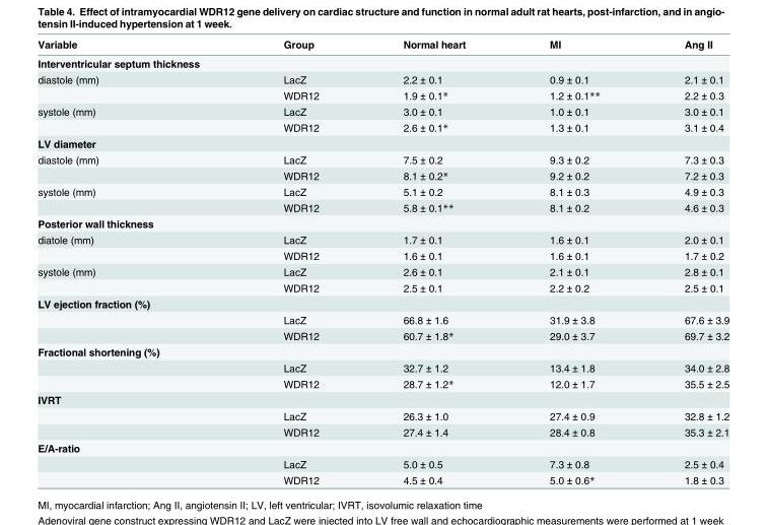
<table><thead><tr><td>Variable</td><td>Group</td><td>Normal heart</td><td>MI</td><td>Ang II</td></tr></thead><tbody><tr><td colspan="5">Interventricular septum thickness</td></tr><tr><td rowspan="2">diastole (mm)</td><td>LacZ</td><td>2.2 ± 0.1</td><td>0.9 ± 0.1</td><td>2.1 ± 0.1</td></tr><tr><td>WDR12</td><td>1.9 ± 0.1*</td><td>1.2 ± 0.1**</td><td>2.2 ± 0.3</td></tr><tr><td rowspan="2">systole (mm)</td><td>LacZ</td><td>3.0 ± 0.1</td><td>1.0 ± 0.1</td><td>3.0 ± 0.1</td></tr><tr><td>WDR12</td><td>2.6 ± 0.1*</td><td>1.3 ± 0.1</td><td>3.1 ± 0.4</td></tr><tr><td colspan="5">LV diameter</td></tr><tr><td rowspan="2">diastole (mm)</td><td>LacZ</td><td>7.5 ± 0.2</td><td>9.3 ± 0.2</td><td>7.3 ± 0.3</td></tr><tr><td>WDR12</td><td>8.1 ± 0.2*</td><td>9.2 ± 0.2</td><td>7.2 ± 0.3</td></tr><tr><td rowspan="2">systole (mm)</td><td>LacZ</td><td>5.1 ± 0.2</td><td>8.1 ± 0.3</td><td>4.9 ± 0.3</td></tr><tr><td>WDR12</td><td>5.8 ± 0.1**</td><td>8.1 ± 0.2</td><td>4.6 ± 0.3</td></tr><tr><td colspan="5">Posterior wall thickness</td></tr><tr><td rowspan="2">diatole (mm)</td><td>LacZ</td><td>1.7 ± 0.1</td><td>1.6 ± 0.1</td><td>2.0 ± 0.1</td></tr><tr><td>WDR12</td><td>1.6 ± 0.1</td><td>1.6 ± 0.1</td><td>1.7 ± 0.2</td></tr><tr><td rowspan="2">systole (mm)</td><td>LacZ</td><td>2.6 ± 0.1</td><td>2.1 ± 0.1</td><td>2.8 ± 0.1</td></tr><tr><td>WDR12</td><td>2.5 ± 0.1</td><td>2.2 ± 0.2</td><td>2.5 ± 0.1</td></tr><tr><td colspan="5">LV ejection fraction (%)</td></tr><tr><td></td><td>LacZ</td><td>66.8 ± 1.6</td><td>31.9 ± 3.8</td><td>67.6 ± 3.9</td></tr><tr><td></td><td>WDR12</td><td>60.7 ± 1.8*</td><td>29.0 ± 3.7</td><td>69.7 ± 3.2</td></tr><tr><td colspan="5">Fractional shortening (%)</td></tr><tr><td></td><td>LacZ</td><td>32.7 ± 1.2</td><td>13.4 ± 1.8</td><td>34.0 ± 2.8</td></tr><tr><td></td><td>WDR12</td><td>28.7 ± 1.2*</td><td>12.0 ± 1.7</td><td>35.5 ± 2.5</td></tr><tr><td colspan="5">IVRT</td></tr><tr><td></td><td>LacZ</td><td>26.3 ± 1.0</td><td>27.4 ± 0.9</td><td>32.8 ± 1.2</td></tr><tr><td></td><td>WDR12</td><td>27.4 ± 1.4</td><td>28.4 ± 0.8</td><td>35.3 ± 2.1</td></tr><tr><td colspan="5">E/A-ratio</td></tr><tr><td></td><td>LacZ</td><td>5.0 ± 0.5</td><td>7.3 ± 0.8</td><td>2.5 ± 0.4</td></tr><tr><td></td><td>WDR12</td><td>4.5 ± 0.4</td><td>5.0 ± 0.6*</td><td>1.8 ± 0.3</td></tr></tbody></table>